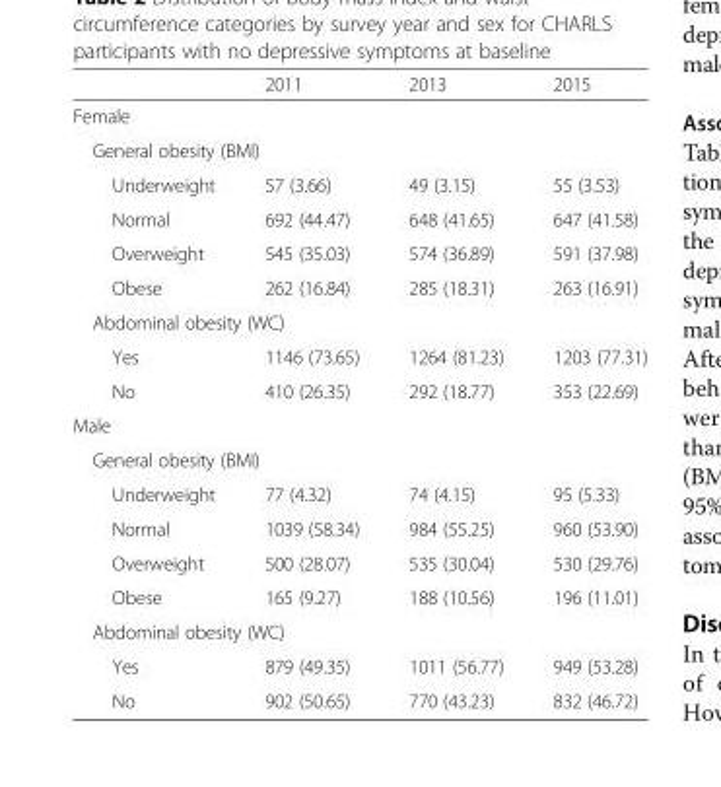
<table><thead><tr><td></td><td>2011</td><td>2013</td><td>2015</td></tr></thead><tbody><tr><td colspan="4">Female</td></tr><tr><td colspan="4">General obesity (BMI)</td></tr><tr><td>Underweight</td><td>57 (3.66)</td><td>49 (3.15)</td><td>55 (3.53)</td></tr><tr><td>Normal</td><td>692 (44.47)</td><td>648 (41.65)</td><td>647 (41.58)</td></tr><tr><td>Overweight</td><td>545 (35.03)</td><td>574 (36.89)</td><td>591 (37.98)</td></tr><tr><td>Obese</td><td>262 (16.84)</td><td>285 (18.31)</td><td>263 (16.91)</td></tr><tr><td colspan="4">Abdominal obesity (WC)</td></tr><tr><td>Yes</td><td>1146 (73.65)</td><td>1264 (81.23)</td><td>1203 (77.31)</td></tr><tr><td>No</td><td>410 (26.35)</td><td>292 (18.77)</td><td>353 (22.69)</td></tr><tr><td colspan="4">Male</td></tr><tr><td colspan="4">General obesity (BMI)</td></tr><tr><td>Underweight</td><td>77 (4.32)</td><td>74 (4.15)</td><td>95 (5.33)</td></tr><tr><td>Normal</td><td>1039 (58.34)</td><td>984 (55.25)</td><td>960 (53.90)</td></tr><tr><td>Overweight</td><td>500 (28.07)</td><td>535 (30.04)</td><td>530 (29.76)</td></tr><tr><td>Obese</td><td>165 (9.27)</td><td>188 (10.56)</td><td>196 (11.01)</td></tr><tr><td colspan="4">Abdominal obesity (WC)</td></tr><tr><td>Yes</td><td>879 (49.35)</td><td>1011 (56.77)</td><td>949 (53.28)</td></tr><tr><td>No</td><td>902 (50.65)</td><td>770 (43.23)</td><td>832 (46.72)</td></tr></tbody></table>